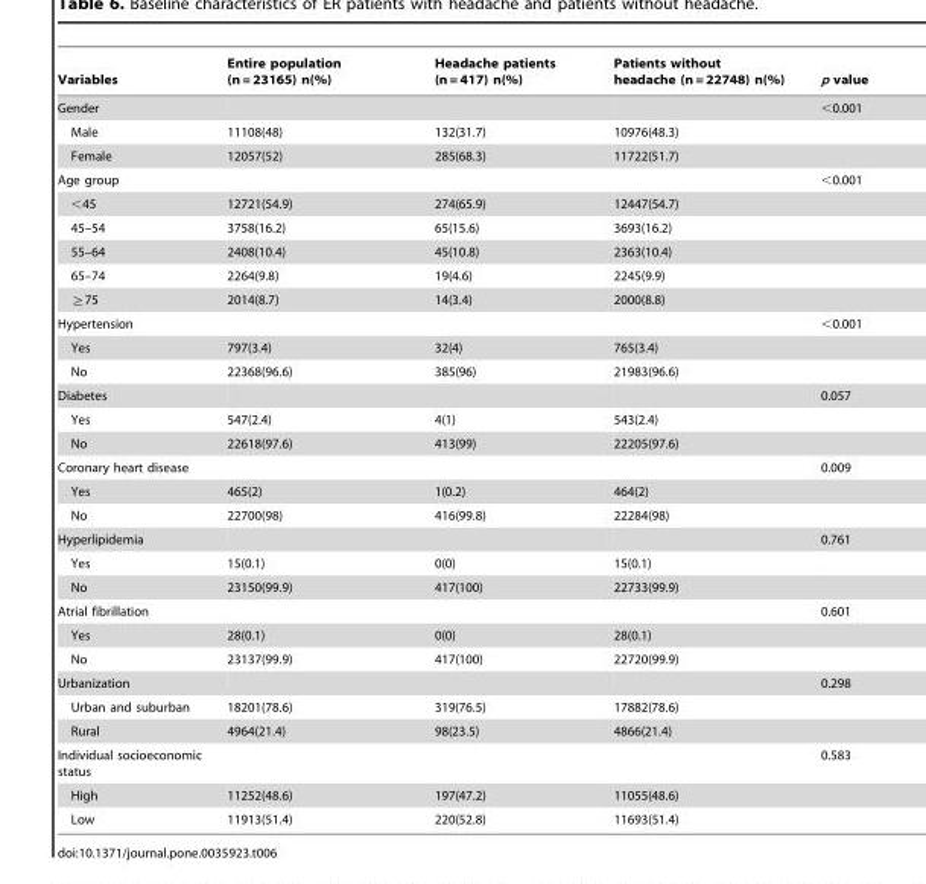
<table><thead><tr><td>Variables</td><td>Entire population (n = 23165) n(%)</td><td>Headache patients (n = 417) n(%)</td><td>Patients without headache (n = 22748) n(%)</td><td>p value</td></tr></thead><tbody><tr><td>Gender</td><td></td><td></td><td></td><td>&lt;0.001</td></tr><tr><td>Male</td><td>11108(48)</td><td>132(31.7)</td><td>10976(48.3)</td><td></td></tr><tr><td>Female</td><td>12057(52)</td><td>285(68.3)</td><td>11722(51.7)</td><td></td></tr><tr><td>Age group</td><td></td><td></td><td></td><td>&lt;0.001</td></tr><tr><td>&lt;45</td><td>12721(54.9)</td><td>274(65.9)</td><td>12447(54.7)</td><td></td></tr><tr><td>45–54</td><td>3758(16.2)</td><td>65(15.6)</td><td>3693(16.2)</td><td></td></tr><tr><td>55–64</td><td>2408(10.4)</td><td>45(10.8)</td><td>2363(10.4)</td><td></td></tr><tr><td>65–74</td><td>2264(9.8)</td><td>19(4.6)</td><td>2245(9.9)</td><td></td></tr><tr><td>≧75</td><td>2014(8.7)</td><td>14(3.4)</td><td>2000(8.8)</td><td></td></tr><tr><td>Hypertension</td><td></td><td></td><td></td><td>&lt;0.001</td></tr><tr><td>Yes</td><td>797(3.4)</td><td>32(4)</td><td>765(3.4)</td><td></td></tr><tr><td>No</td><td>22368(96.6)</td><td>385(96)</td><td>21983(96.6)</td><td></td></tr><tr><td>Diabetes</td><td></td><td></td><td></td><td>0.057</td></tr><tr><td>Yes</td><td>547(2.4)</td><td>4(1)</td><td>543(2.4)</td><td></td></tr><tr><td>No</td><td>22618(97.6)</td><td>413(99)</td><td>22205(97.6)</td><td></td></tr><tr><td>Coronary heart disease</td><td></td><td></td><td></td><td>0.009</td></tr><tr><td>Yes</td><td>465(2)</td><td>1(0.2)</td><td>464(2)</td><td></td></tr><tr><td>No</td><td>22700(98)</td><td>416(99.8)</td><td>22284(98)</td><td></td></tr><tr><td>Hyperlipidemia</td><td></td><td></td><td></td><td>0.761</td></tr><tr><td>Yes</td><td>15(0.1)</td><td>0(0)</td><td>15(0.1)</td><td></td></tr><tr><td>No</td><td>23150(99.9)</td><td>417(100)</td><td>22733(99.9)</td><td></td></tr><tr><td>Atrial fibrillation</td><td></td><td></td><td></td><td>0.601</td></tr><tr><td>Yes</td><td>28(0.1)</td><td>0(0)</td><td>28(0.1)</td><td></td></tr><tr><td>No</td><td>23137(99.9)</td><td>417(100)</td><td>22720(99.9)</td><td></td></tr><tr><td>Urbanization</td><td></td><td></td><td></td><td>0.298</td></tr><tr><td>Urban and suburban</td><td>18201(78.6)</td><td>319(76.5)</td><td>17882(78.6)</td><td></td></tr><tr><td>Rural</td><td>4964(21.4)</td><td>98(23.5)</td><td>4866(21.4)</td><td></td></tr><tr><td>Individual socioeconomic status</td><td></td><td></td><td></td><td>0.583</td></tr><tr><td>High</td><td>11252(48.6)</td><td>197(47.2)</td><td>11055(48.6)</td><td></td></tr><tr><td>Low</td><td>11913(51.4)</td><td>220(52.8)</td><td>11693(51.4)</td><td></td></tr></tbody></table>